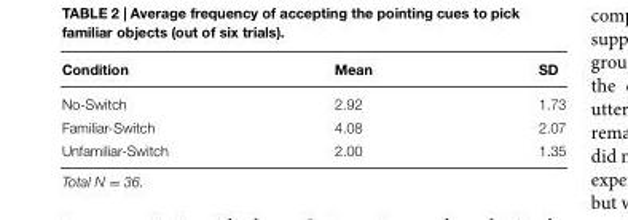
<table><thead><tr><td>Condition</td><td>Mean</td><td>SD</td></tr></thead><tbody><tr><td>No-Switch</td><td>2.92</td><td>1.73</td></tr><tr><td>Familiar-Switch</td><td>4.08</td><td>2.07</td></tr><tr><td>Unfamiliar-Switch</td><td>2.00</td><td>1.35</td></tr></tbody></table>